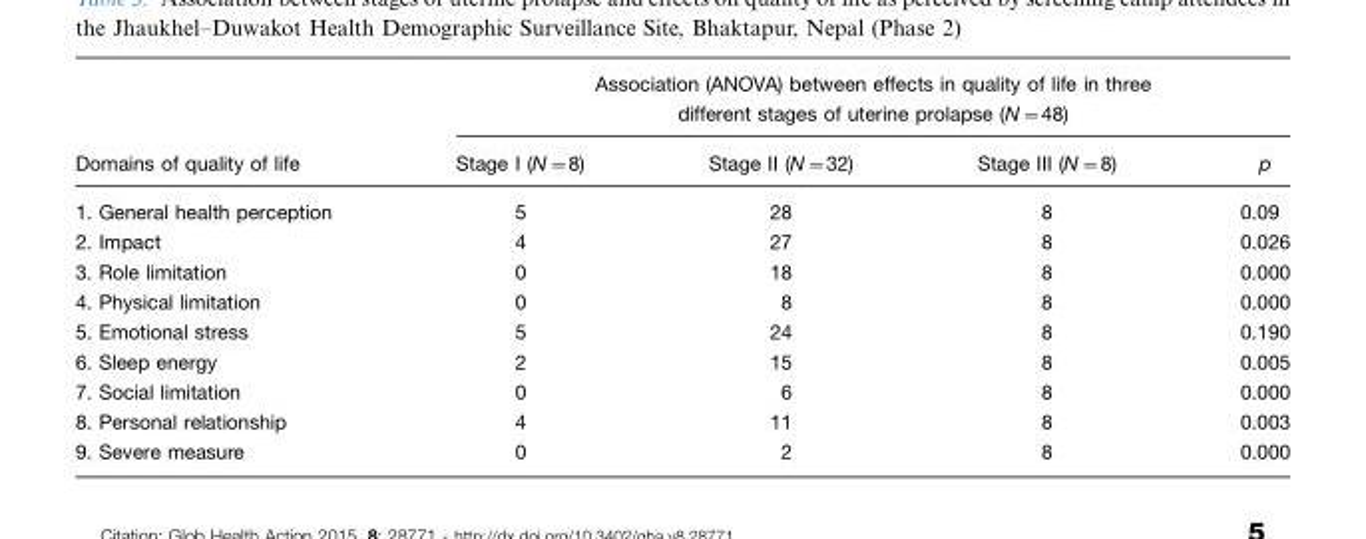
<table><thead><tr><td></td><td></td><td colspan="4">Association (ANOVA) between effects in quality of life in three different stages of uterine prolapse (N=48)</td></tr><tr><td colspan="2">Domains of quality of life</td><td>Stage I (N=8)</td><td>Stage II (N=32)</td><td>Stage III (N=8)</td><td>p</td></tr></thead><tbody><tr><td>1.</td><td>General health perception</td><td>5</td><td>28</td><td>8</td><td>0.09</td></tr><tr><td>2.</td><td>Impact</td><td>4</td><td>27</td><td>8</td><td>0.026</td></tr><tr><td>3.</td><td>Role limitation</td><td>0</td><td>18</td><td>8</td><td>0.000</td></tr><tr><td>4.</td><td>Physical limitation</td><td>0</td><td>8</td><td>8</td><td>0.000</td></tr><tr><td>5.</td><td>Emotional stress</td><td>5</td><td>24</td><td>8</td><td>0.190</td></tr><tr><td>6.</td><td>Sleep energy</td><td>2</td><td>15</td><td>8</td><td>0.005</td></tr><tr><td>7.</td><td>Social limitation</td><td>0</td><td>6</td><td>8</td><td>0.000</td></tr><tr><td>8.</td><td>Personal relationship</td><td>4</td><td>11</td><td>8</td><td>0.003</td></tr><tr><td>9.</td><td>Severe measure</td><td>0</td><td>2</td><td>8</td><td>0.000</td></tr></tbody></table>